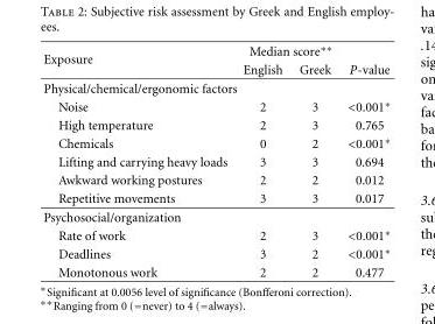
<table><thead><tr><td rowspan="2">Exposure</td><td colspan="2">Median score∗∗</td><td rowspan="2">P-value</td></tr><tr><td>English</td><td>Greek</td></tr></thead><tbody><tr><td colspan="4">Physical/chemical/ergonomic factors</td></tr><tr><td>Noise</td><td>2</td><td>3</td><td>&lt;0.001∗</td></tr><tr><td>High temperature</td><td>2</td><td>3</td><td>0.765</td></tr><tr><td>Chemicals</td><td>0</td><td>2</td><td>&lt;0.001∗</td></tr><tr><td>Lifting and carrying heavy loads</td><td>3</td><td>3</td><td>0.694</td></tr><tr><td>Awkward working postures</td><td>2</td><td>2</td><td>0.012</td></tr><tr><td>Repetitive movements</td><td>3</td><td>3</td><td>0.017</td></tr><tr><td colspan="4">Psychosocial/organization</td></tr><tr><td>Rate of work</td><td>2</td><td>3</td><td>&lt;0.001∗</td></tr><tr><td>Deadlines</td><td>3</td><td>2</td><td>&lt;0.001∗</td></tr><tr><td>Monotonous work</td><td>2</td><td>2</td><td>0.477</td></tr></tbody></table>